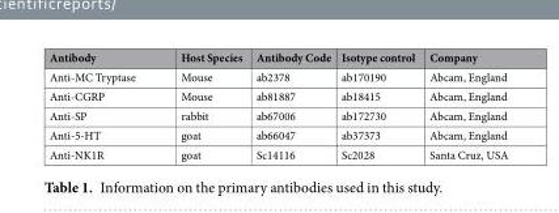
<table><thead><tr><td>Antibody</td><td>Host Species</td><td>Antibody Code</td><td>Isotype control</td><td>Company</td></tr></thead><tbody><tr><td>Anti-MC Tryptase</td><td>Mouse</td><td>ab2378</td><td>ab170190</td><td>Abcam, England</td></tr><tr><td>Anti-CGRP</td><td>Mouse</td><td>ab81887</td><td>ab18415</td><td>Abcam, England</td></tr><tr><td>Anti-SP</td><td>rabbit</td><td>ab67006</td><td>ab172730</td><td>Abcam, England</td></tr><tr><td>Anti-5-HT</td><td>goat</td><td>ab66047</td><td>ab37373</td><td>Abcam, England</td></tr><tr><td>Anti-NK1R</td><td>goat</td><td>Sc14116</td><td>Sc2028</td><td>Santa Cruz, USA</td></tr></tbody></table>